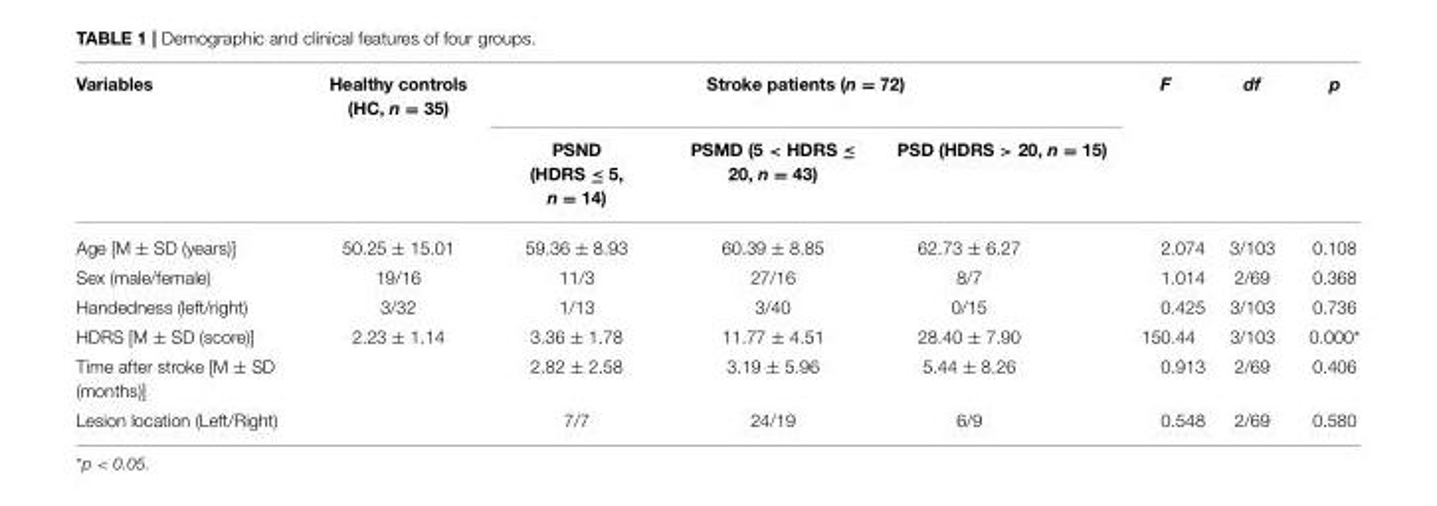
<table><thead><tr><td rowspan="2">Variables</td><td rowspan="2">Healthy controls (HC, n = 35)</td><td colspan="3">Stroke patients (n = 72)</td><td rowspan="2">F</td><td rowspan="2">df</td><td rowspan="2">p</td></tr><tr><td>PSND (HDRS ≤ 5, n = 14)</td><td>PSMD (5 &lt; HDRS ≤ 20, n = 43)</td><td>PSD (HDRS &gt; 20, n = 15)</td></tr></thead><tbody><tr><td>Age [M ± SD (years)]</td><td>50.25 ± 15.01</td><td>59.36 ± 8.93</td><td>60.39 ± 8.85</td><td>62.73 ± 6.27</td><td>2.074</td><td>3/103</td><td>0.108</td></tr><tr><td>Sex (male/female)</td><td>19/16</td><td>11/3</td><td>27/16</td><td>8/7</td><td>1.014</td><td>2/69</td><td>0.368</td></tr><tr><td>Handedness (left/right)</td><td>3/32</td><td>1/13</td><td>3/40</td><td>0/15</td><td>0.425</td><td>3/103</td><td>0.736</td></tr><tr><td>HDRS [M ± SD (score)]</td><td>2.23 ± 1.14</td><td>3.36 ± 1.78</td><td>11.77 ± 4.51</td><td>28.40 ± 7.90</td><td>150.44</td><td>3/103</td><td>0.000*</td></tr><tr><td>Time after stroke [M ± SD (months)]</td><td></td><td>2.82 ± 2.58</td><td>3.19 ± 5.96</td><td>5.44 ± 8.26</td><td>0.913</td><td>2/69</td><td>0.406</td></tr><tr><td>Lesion location (Left/Right)</td><td></td><td>7/7</td><td>24/19</td><td>6/9</td><td>0.548</td><td>2/69</td><td>0.580</td></tr></tbody></table>